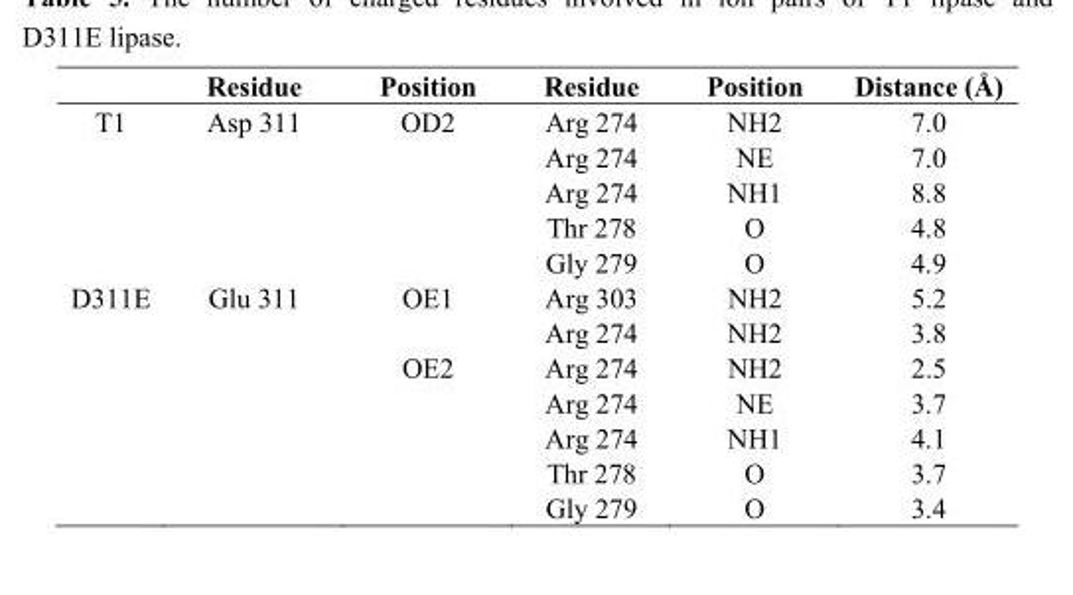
<table><thead><tr><td></td><td>Residue</td><td>Position</td><td>Residue</td><td>Position</td><td>Distance (Å)</td></tr></thead><tbody><tr><td rowspan="5">T1</td><td>Asp 311</td><td>OD2</td><td>Arg 274</td><td>NH2</td><td>7.0</td></tr><tr><td></td><td></td><td>Arg 274</td><td>NE</td><td>7.0</td></tr><tr><td></td><td></td><td>Arg 274</td><td>NH1</td><td>8.8</td></tr><tr><td></td><td></td><td>Thr 278</td><td>O</td><td>4.8</td></tr><tr><td></td><td></td><td>Gly 279</td><td>O</td><td>4.9</td></tr><tr><td rowspan="7">D311E</td><td>Glu 311</td><td>OE1</td><td>Arg 303</td><td>NH2</td><td>5.2</td></tr><tr><td></td><td></td><td>Arg 274</td><td>NH2</td><td>3.8</td></tr><tr><td></td><td>OE2</td><td>Arg 274</td><td>NH2</td><td>2.5</td></tr><tr><td></td><td></td><td>Arg 274</td><td>NE</td><td>3.7</td></tr><tr><td></td><td></td><td>Arg 274</td><td>NH1</td><td>4.1</td></tr><tr><td></td><td></td><td>Thr 278</td><td>O</td><td>3.7</td></tr><tr><td></td><td></td><td>Gly 279</td><td>O</td><td>3.4</td></tr></tbody></table>